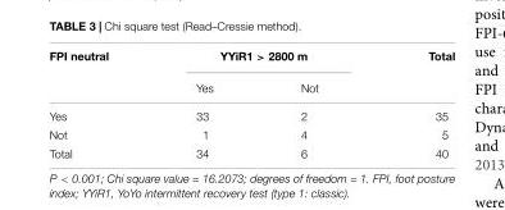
<table><thead><tr><td rowspan="2">FPI neutral</td><td colspan="2">YYiR1 &gt; 2800 m</td><td rowspan="2">Total</td></tr><tr><td>Yes</td><td>Not</td></tr></thead><tbody><tr><td>Yes</td><td>33</td><td>2</td><td>35</td></tr><tr><td>Not</td><td>1</td><td>4</td><td>5</td></tr><tr><td>Total</td><td>34</td><td>6</td><td>40</td></tr></tbody></table>